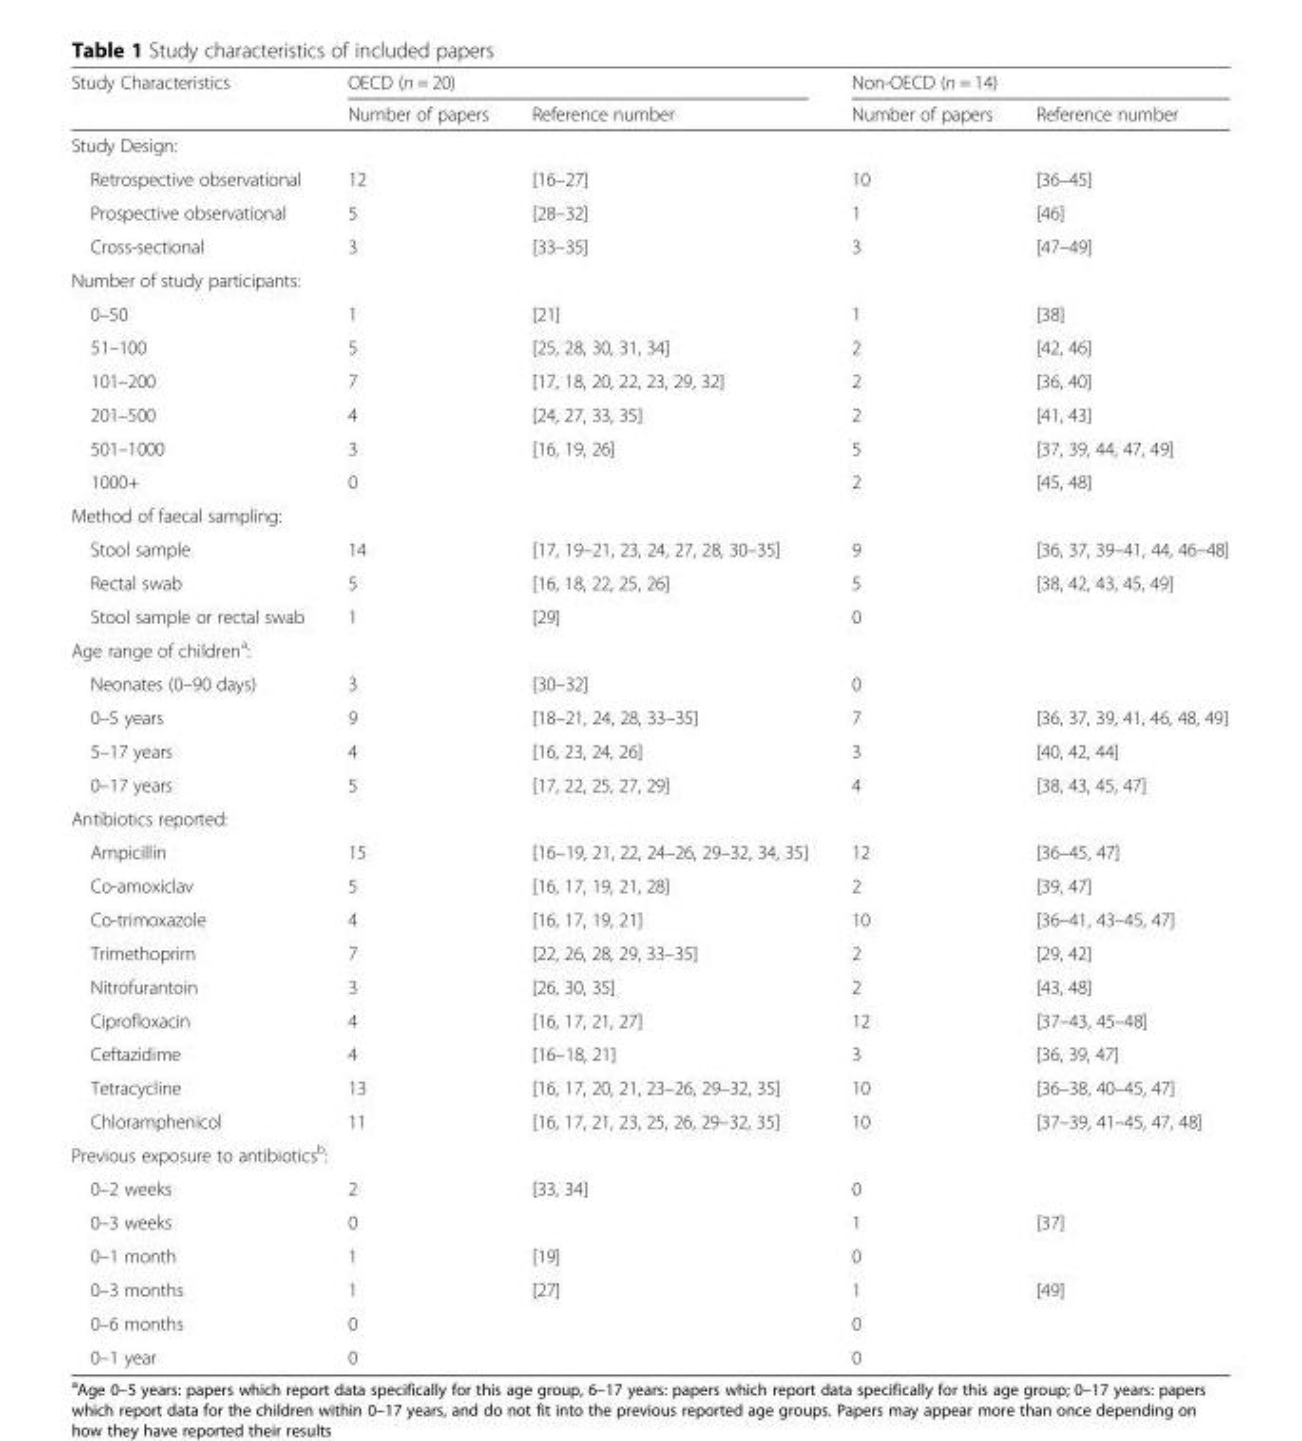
<table><thead><tr><td rowspan="2">Study Characteristics</td><td colspan="2">OECD (n = 20)</td><td colspan="2">Non-OECD (n = 14)</td></tr><tr><td>Number of papers</td><td>Reference number</td><td>Number of papers</td><td>Reference number</td></tr></thead><tbody><tr><td colspan="5">Study Design:</td></tr><tr><td>Retrospective observational</td><td>12</td><td>[16–27]</td><td>10</td><td>[36–45]</td></tr><tr><td>Prospective observational</td><td>5</td><td>[28–32]</td><td>1</td><td>[46]</td></tr><tr><td>Cross-sectional</td><td>3</td><td>[33–35]</td><td>3</td><td>[47–49]</td></tr><tr><td colspan="5">Number of study participants:</td></tr><tr><td>0–50</td><td>1</td><td>[21]</td><td>1</td><td>[38]</td></tr><tr><td>51–100</td><td>5</td><td>[25, 28, 30, 31, 34]</td><td>2</td><td>[42, 46]</td></tr><tr><td>101–200</td><td>7</td><td>[17, 18, 20, 22, 23, 29, 32]</td><td>2</td><td>[36, 40]</td></tr><tr><td>201–500</td><td>4</td><td>[24, 27, 33, 35]</td><td>2</td><td>[41, 43]</td></tr><tr><td>501–1000</td><td>3</td><td>[16, 19, 26]</td><td>5</td><td>[37, 39, 44, 47, 49]</td></tr><tr><td>1000+</td><td>0</td><td></td><td>2</td><td>[45, 48]</td></tr><tr><td colspan="5">Method of faecal sampling:</td></tr><tr><td>Stool sample</td><td>14</td><td>[17, 19–21, 23, 24, 27, 28, 30–35]</td><td>9</td><td>[36, 37, 39–41, 44, 46–48]</td></tr><tr><td>Rectal swab</td><td>5</td><td>[16, 18, 22, 25, 26]</td><td>5</td><td>[38, 42, 43, 45, 49]</td></tr><tr><td>Stool sample or rectal swab</td><td>1</td><td>[29]</td><td>0</td><td></td></tr><tr><td colspan="5">Age range of children<sup>a</sup>:</td></tr><tr><td>Neonates (0–90 days)</td><td>3</td><td>[30–32]</td><td>0</td><td></td></tr><tr><td>0–5 years</td><td>9</td><td>[18–21, 24, 28, 33–35]</td><td>7</td><td>[36, 37, 39, 41, 46, 48, 49]</td></tr><tr><td>5–17 years</td><td>4</td><td>[16, 23, 24, 26]</td><td>3</td><td>[40, 42, 44]</td></tr><tr><td>0–17 years</td><td>5</td><td>[17, 22, 25, 27, 29]</td><td>4</td><td>[38, 43, 45, 47]</td></tr><tr><td colspan="5">Antibiotics reported:</td></tr><tr><td>Ampicillin</td><td>15</td><td>[16–19, 21, 22, 24–26, 29–32, 34, 35]</td><td>12</td><td>[36–45, 47]</td></tr><tr><td>Co-amoxiclav</td><td>5</td><td>[16, 17, 19, 21, 28]</td><td>2</td><td>[39, 47]</td></tr><tr><td>Co-trimoxazole</td><td>4</td><td>[16, 17, 19, 21]</td><td>10</td><td>[36–41, 43–45, 47]</td></tr><tr><td>Trimethoprim</td><td>7</td><td>[22, 26, 28, 29, 33–35]</td><td>2</td><td>[29, 42]</td></tr><tr><td>Nitrofurantoin</td><td>3</td><td>[26, 30, 35]</td><td>2</td><td>[43, 48]</td></tr><tr><td>Ciprofloxacin</td><td>4</td><td>[16, 17, 21, 27]</td><td>12</td><td>[37–43, 45–48]</td></tr><tr><td>Ceftazidime</td><td>4</td><td>[16–18, 21]</td><td>3</td><td>[36, 39, 47]</td></tr><tr><td>Tetracycline</td><td>13</td><td>[16, 17, 20, 21, 23–26, 29–32, 35]</td><td>10</td><td>[36–38, 40–45, 47]</td></tr><tr><td>Chloramphenicol</td><td>11</td><td>[16, 17, 21, 23, 25, 26, 29–32, 35]</td><td>10</td><td>[37–39, 41–45, 47, 48]</td></tr><tr><td colspan="5">Previous exposure to antibiotics<sup>b</sup>:</td></tr><tr><td>0–2 weeks</td><td>2</td><td>[33, 34]</td><td>0</td><td></td></tr><tr><td>0–3 weeks</td><td>0</td><td></td><td>1</td><td>[37]</td></tr><tr><td>0–1 month</td><td>1</td><td>[19]</td><td>0</td><td></td></tr><tr><td>0–3 months</td><td>1</td><td>[27]</td><td>1</td><td>[49]</td></tr><tr><td>0–6 months</td><td>0</td><td></td><td>0</td><td></td></tr><tr><td>0–1 year</td><td>0</td><td></td><td>0</td><td></td></tr></tbody></table>